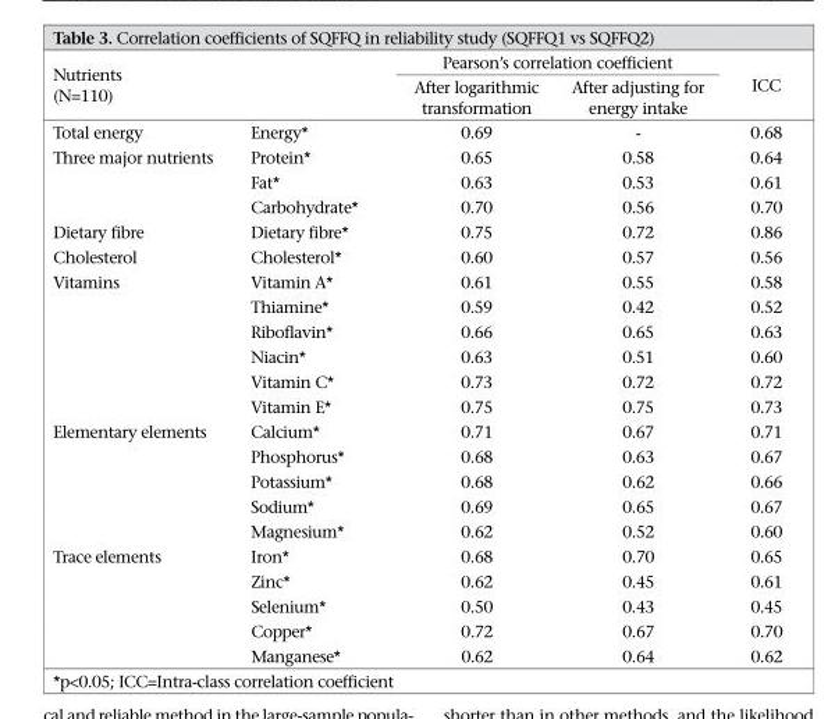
<table><thead><tr><td rowspan="2" colspan="2">Nutrients (N=110)</td><td colspan="2">Pearson’s correlation coefficient</td><td rowspan="3">ICC 0.68</td></tr><tr><td rowspan="2">After logarithmic transformation 0.69</td><td rowspan="2">After adjusting for energy intake -</td></tr><tr><td>Total energy</td><td>Energy*</td></tr></thead><tbody><tr><td rowspan="3">Three major nutrients</td><td>Protein*</td><td>0.65</td><td>0.58</td><td>0.64</td></tr><tr><td>Fat*</td><td>0.63</td><td>0.53</td><td>0.61</td></tr><tr><td>Carbohydrate*</td><td>0.70</td><td>0.56</td><td>0.70</td></tr><tr><td>Dietary fibre</td><td>Dietary fibre*</td><td>0.75</td><td>0.72</td><td>0.86</td></tr><tr><td>Cholesterol</td><td>Cholesterol*</td><td>0.60</td><td>0.57</td><td>0.56</td></tr><tr><td rowspan="6">Vitamins</td><td>Vitamin A*</td><td>0.61</td><td>0.55</td><td>0.58</td></tr><tr><td>Thiamine*</td><td>0.59</td><td>0.42</td><td>0.52</td></tr><tr><td>Riboflavin*</td><td>0.66</td><td>0.65</td><td>0.63</td></tr><tr><td>Niacin*</td><td>0.63</td><td>0.51</td><td>0.60</td></tr><tr><td>Vitamin C*</td><td>0.73</td><td>0.72</td><td>0.72</td></tr><tr><td>Vitamin E*</td><td>0.75</td><td>0.75</td><td>0.73</td></tr><tr><td rowspan="5">Elementary elements</td><td>Calcium*</td><td>0.71</td><td>0.67</td><td>0.71</td></tr><tr><td>Phosphorus*</td><td>0.68</td><td>0.63</td><td>0.67</td></tr><tr><td>Potassium*</td><td>0.68</td><td>0.62</td><td>0.66</td></tr><tr><td>Sodium*</td><td>0.69</td><td>0.65</td><td>0.67</td></tr><tr><td>Magnesium*</td><td>0.62</td><td>0.52</td><td>0.60</td></tr><tr><td rowspan="5">Trace elements</td><td>Iron*</td><td>0.68</td><td>0.70</td><td>0.65</td></tr><tr><td>Zinc*</td><td>0.62</td><td>0.45</td><td>0.61</td></tr><tr><td>Selenium*</td><td>0.50</td><td>0.43</td><td>0.45</td></tr><tr><td>Copper*</td><td>0.72</td><td>0.67</td><td>0.70</td></tr><tr><td>Manganese*</td><td>0.62</td><td>0.64</td><td>0.62</td></tr></tbody></table>